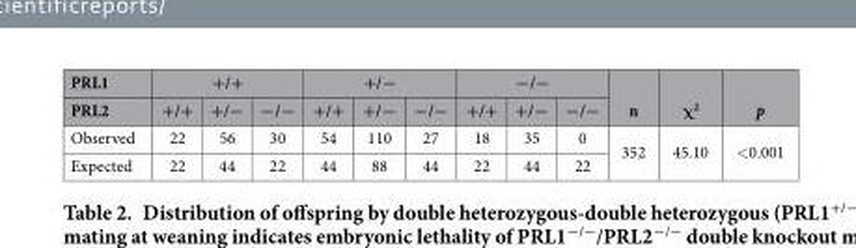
<table><thead><tr><td rowspan="2">PRL1 PRL2</td><td colspan="3">+/+</td><td colspan="3">+/−</td><td colspan="3">−/−</td><td rowspan="2">n</td><td rowspan="2">χ<sup>2</sup></td><td rowspan="2">p</td></tr><tr><td>+/+</td><td>+/−</td><td>−/−</td><td>+/+</td><td>+/−</td><td>−/−</td><td>+/+</td><td>+/−</td><td>−/−</td></tr></thead><tbody><tr><td>Observed</td><td>22</td><td>56</td><td>30</td><td>54</td><td>110</td><td>27</td><td>18</td><td>35</td><td>0</td><td rowspan="2">352</td><td rowspan="2">45.10</td><td rowspan="2">&lt; 0.001</td></tr><tr><td>Expected</td><td>22</td><td>44</td><td>22</td><td>44</td><td>88</td><td>44</td><td>22</td><td>44</td><td>22</td></tr></tbody></table>